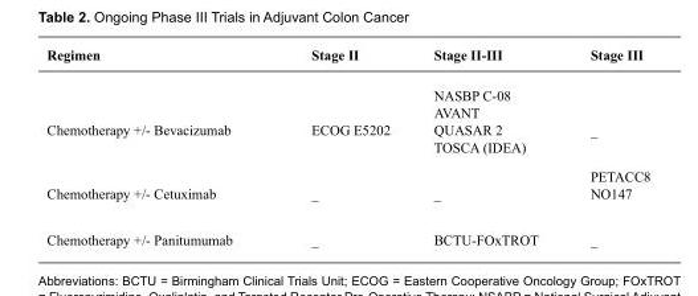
<table><thead><tr><td>Regimen</td><td>Stage II</td><td>Stage II-III</td><td>Stage III</td></tr></thead><tbody><tr><td>Chemotherapy +/- Bevacizumab</td><td>ECOG E5202</td><td>NASBP C-08 AVANT QUASAR 2 TOSCA (IDEA)</td><td>_</td></tr><tr><td>Chemotherapy +/- Cetuximab</td><td>_</td><td>_</td><td>PETACC8 NO147</td></tr><tr><td>Chemotherapy +/- Panitumumab</td><td>_</td><td>BCTU-FOxTROT</td><td>_</td></tr></tbody></table>